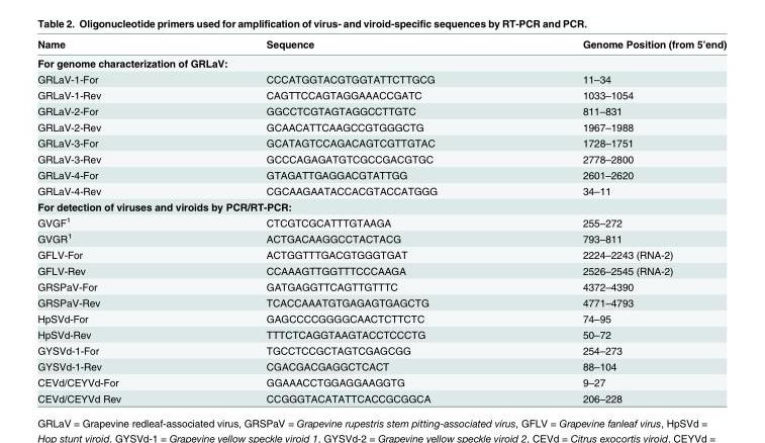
<table><thead><tr><td>Name</td><td>Sequence</td><td>Genome Position (from 5’end)</td></tr></thead><tbody><tr><td colspan="3">For genome characterization of GRLaV:</td></tr><tr><td>GRLaV-1-For</td><td>CCCATGGTACGTGGTATTCTTGCG</td><td>11–34</td></tr><tr><td>GRLaV-1-Rev</td><td>CAGTTCCAGTAGGAAACCGATC</td><td>1033–1054</td></tr><tr><td>GRLaV-2-For</td><td>GGCCTCGTAGTAGGCCTTGTC</td><td>811–831</td></tr><tr><td>GRLaV-2-Rev</td><td>GCAACATTCAAGCCGTGGGCTG</td><td>1967–1988</td></tr><tr><td>GRLaV-3-For</td><td>GCATAGTCCAGACAGTCGTTGTAC</td><td>1728–1751</td></tr><tr><td>GRLaV-3-Rev</td><td>GCCCAGAGATGTCGCCGACGTGC</td><td>2778–2800</td></tr><tr><td>GRLaV-4-For</td><td>GTAGATTGAGGACGTATTGG</td><td>2601–2620</td></tr><tr><td>GRLaV-4-Rev</td><td>CGCAAGAATACCACGTACCATGGG</td><td>34–11</td></tr><tr><td colspan="3">For detection of viruses and viroids by PCR/RT-PCR:</td></tr><tr><td>GVGF<sup>1</sup></td><td>CTCGTCGCATTTGTAAGA</td><td>255–272</td></tr><tr><td>GVGR<sup>1</sup></td><td>ACTGACAAGGCCTACTACG</td><td>793–811</td></tr><tr><td>GFLV-For</td><td>ACTGGTTTGACGTGGGTGAT</td><td>2224–2243 (RNA-2)</td></tr><tr><td>GFLV-Rev</td><td>CCAAAGTTGGTTTCCCAAGA</td><td>2526–2545 (RNA-2)</td></tr><tr><td>GRSPaV-For</td><td>GATGAGGTTCAGTTGTTTC</td><td>4372–4390</td></tr><tr><td>GRSPaV-Rev</td><td>TCACCAAATGTGAGAGTGAGCTG</td><td>4771–4793</td></tr><tr><td>HpSVd-For</td><td>GAGCCCCGGGGCAACTCTTCTC</td><td>74–95</td></tr><tr><td>HpSVd-Rev</td><td>TTTCTCAGGTAAGTACCTCCCTG</td><td>50–72</td></tr><tr><td>GYSVd-1-For</td><td>TGCCTCCGCTAGTCGAGCGG</td><td>254–273</td></tr><tr><td>GYSVd-1-Rev</td><td>CGACGACGAGGCTCACT</td><td>88–104</td></tr><tr><td>CEVd/CEYVd-For</td><td>GGAAACCTGGAGGAAGGTG</td><td>9–27</td></tr><tr><td>CEVd/CEYVd Rev</td><td>CCGGGTACATATTCACCGCGGCA</td><td>206–228</td></tr></tbody></table>